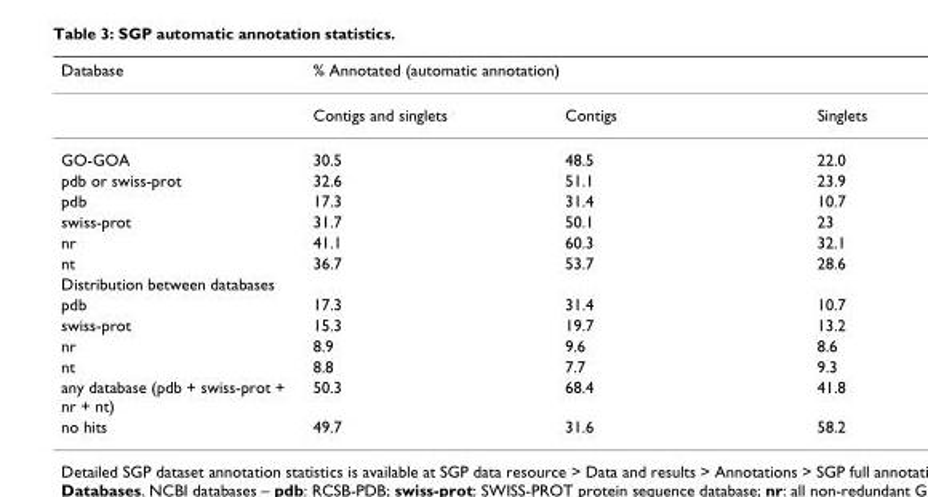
<table><thead><tr><td rowspan="2">Database</td><td colspan="3">% Annotated (automatic annotation)</td></tr><tr><td>Contigs and singlets</td><td>Contigs</td><td>Singlets</td></tr></thead><tbody><tr><td>GO-GOA</td><td>30.5</td><td>48.5</td><td>22.0</td></tr><tr><td>pdb or swiss-prot</td><td>32.6</td><td>51.1</td><td>23.9</td></tr><tr><td>pdb</td><td>17.3</td><td>31.4</td><td>10.7</td></tr><tr><td>swiss-prot</td><td>31.7</td><td>50.1</td><td>23</td></tr><tr><td>nr</td><td>41.1</td><td>60.3</td><td>32.1</td></tr><tr><td>nt</td><td>36.7</td><td>53.7</td><td>28.6</td></tr><tr><td colspan="4">Distribution between databases</td></tr><tr><td>pdb</td><td>17.3</td><td>31.4</td><td>10.7</td></tr><tr><td>swiss-prot</td><td>15.3</td><td>19.7</td><td>13.2</td></tr><tr><td>nr</td><td>8.9</td><td>9.6</td><td>8.6</td></tr><tr><td>nt</td><td>8.8</td><td>7.7</td><td>9.3</td></tr><tr><td>any database (pdb + swiss-prot + nr + nt)</td><td>50.3</td><td>68.4</td><td>41.8</td></tr><tr><td>no hits</td><td>49.7</td><td>31.6</td><td>58.2</td></tr></tbody></table>